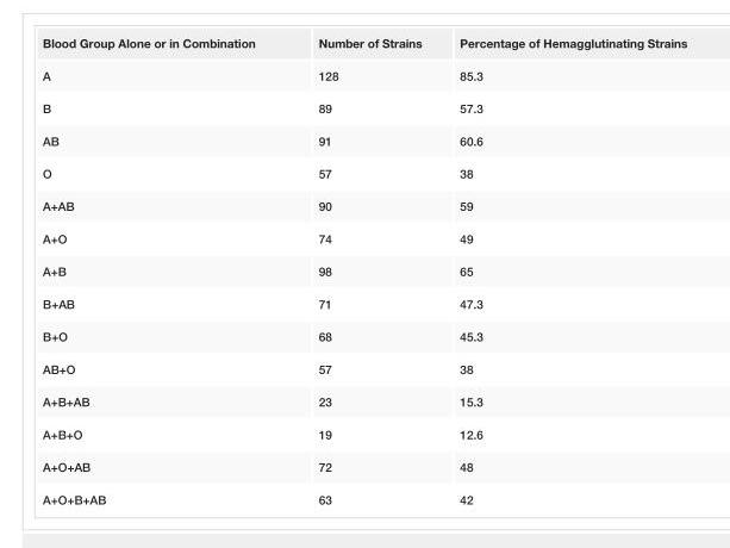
<table><tbody><tr><td>Blood Group Alone or in Combination</td><td>Number of Strains</td><td>Percentage of Hemagglutinating Strains</td></tr><tr><td>A</td><td>128</td><td>85.3</td></tr><tr><td>B</td><td>89</td><td>57.3</td></tr><tr><td>AB</td><td>91</td><td>60.6</td></tr><tr><td>O</td><td>57</td><td>38</td></tr><tr><td>A+AB</td><td>90</td><td>59</td></tr><tr><td>A+O</td><td>74</td><td>49</td></tr><tr><td>A+B</td><td>98</td><td>65</td></tr><tr><td>B+AB</td><td>71</td><td>47.3</td></tr><tr><td>B+O</td><td>68</td><td>45.3</td></tr><tr><td>AB+O</td><td>57</td><td>38</td></tr><tr><td>A+B+AB</td><td>23</td><td>15.3</td></tr><tr><td>A+B+O</td><td>19</td><td>12.6</td></tr><tr><td>A+O+AB</td><td>72</td><td>48</td></tr><tr><td>A+O+B+AB</td><td>63</td><td>42</td></tr></tbody></table>